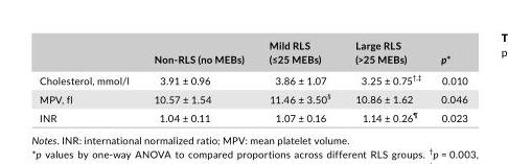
<table><thead><tr><td></td><td>Non‐RLS (no MEBs)</td><td>Mild RLS (≤25 MEBs)</td><td>Large RLS (&gt;25 MEBs)</td><td>p*</td></tr></thead><tbody><tr><td>Cholesterol, mmol/l</td><td>3.91 ± 0.96</td><td>3.86 ± 1.07</td><td>3.25 ± 0.75†,‡</td><td>0.010</td></tr><tr><td>MPV, fl</td><td>10.57 ± 1.54</td><td>11.46 ± 3.50§</td><td>10.86 ± 1.62</td><td>0.046</td></tr><tr><td>INR</td><td>1.04 ± 0.11</td><td>1.07 ± 0.16</td><td>1.14 ± 0.26¶</td><td>0.023</td></tr></tbody></table>